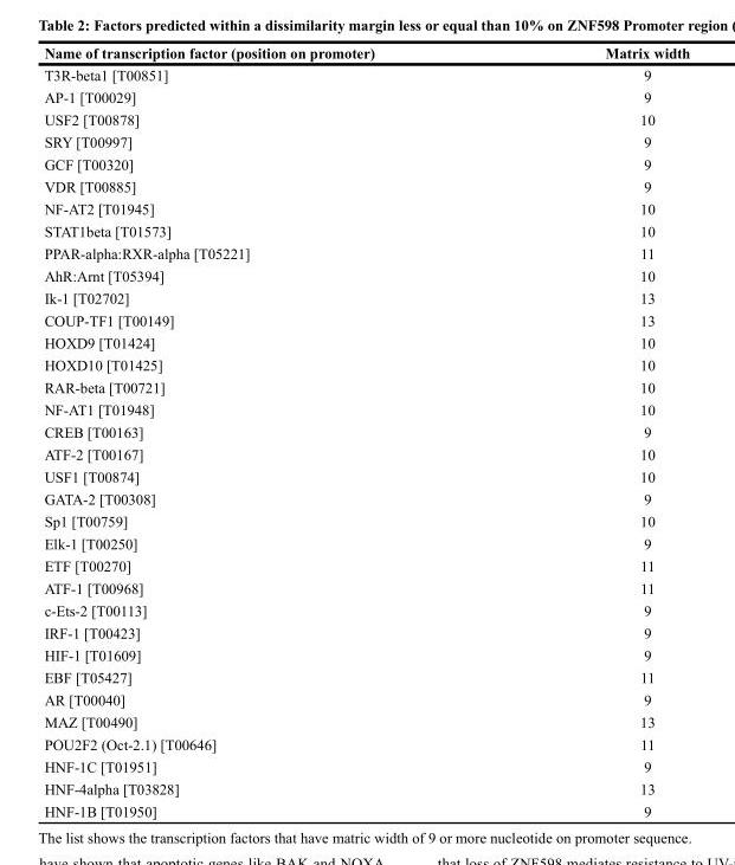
<table><thead><tr><td>Name of transcription factor (position on promoter)</td><td>Matrix width</td></tr></thead><tbody><tr><td>T3R-beta1 [T00851]</td><td>9</td></tr><tr><td>AP-1 [T00029]</td><td>9</td></tr><tr><td>USF2 [T00878]</td><td>10</td></tr><tr><td>SRY [T00997]</td><td>9</td></tr><tr><td>GCF [T00320]</td><td>9</td></tr><tr><td>VDR [T00885]</td><td>9</td></tr><tr><td>NF-AT2 [T01945]</td><td>10</td></tr><tr><td>STAT1beta [T01573]</td><td>10</td></tr><tr><td>PPAR-alpha:RXR-alpha [T05221]</td><td>11</td></tr><tr><td>AhR:Arnt [T05394]</td><td>10</td></tr><tr><td>Ik-1 [T02702]</td><td>13</td></tr><tr><td>COUP-TF1 [T00149]</td><td>13</td></tr><tr><td>HOXD9 [T01424]</td><td>10</td></tr><tr><td>HOXD10 [T01425]</td><td>10</td></tr><tr><td>RAR-beta [T00721]</td><td>10</td></tr><tr><td>NF-AT1 [T01948]</td><td>10</td></tr><tr><td>CREB [T00163]</td><td>9</td></tr><tr><td>ATF-2 [T00167]</td><td>10</td></tr><tr><td>USF1 [T00874]</td><td>10</td></tr><tr><td>GATA-2 [T00308]</td><td>9</td></tr><tr><td>Sp1 [T00759]</td><td>10</td></tr><tr><td>Elk-1 [T00250]</td><td>9</td></tr><tr><td>ETF [T00270]</td><td>11</td></tr><tr><td>ATF-1 [T00968]</td><td>11</td></tr><tr><td>c-Ets-2 [T00113]</td><td>9</td></tr><tr><td>IRF-1 [T00423]</td><td>9</td></tr><tr><td>HIF-1 [T01609]</td><td>9</td></tr><tr><td>EBF [T05427]</td><td>11</td></tr><tr><td>AR [T00040]</td><td>9</td></tr><tr><td>MAZ [T00490]</td><td>13</td></tr><tr><td>POU2F2 (Oct-2.1) [T00646]</td><td>11</td></tr><tr><td>HNF-1C [T01951]</td><td>9</td></tr><tr><td>HNF-4alpha [T03828]</td><td>13</td></tr><tr><td>HNF-1B [T01950]</td><td>9</td></tr></tbody></table>